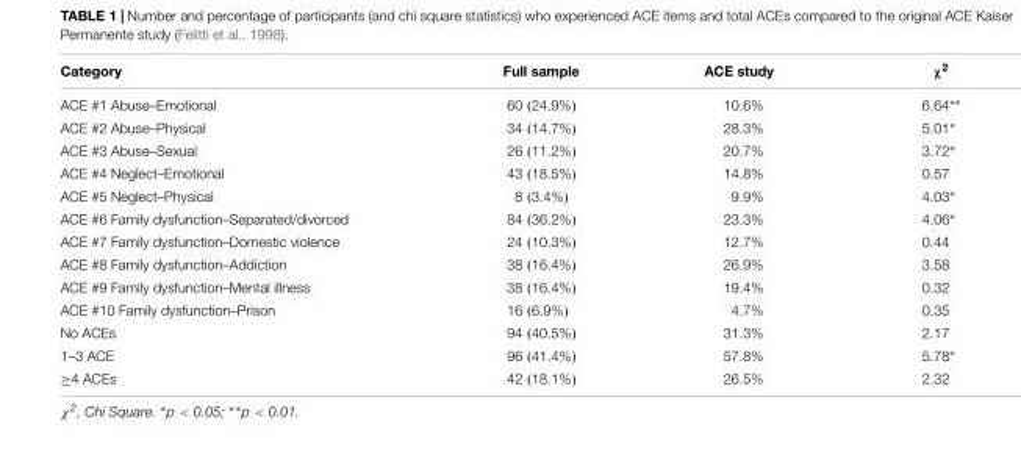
<table><thead><tr><td>Category</td><td>Full sample</td><td>ACE study</td><td>χ<sup>2</sup></td></tr></thead><tbody><tr><td>ACE #1 Abuse–Emotional</td><td>60 (24.9%)</td><td>10.6%</td><td>6.64∗∗</td></tr><tr><td>ACE #2 Abuse–Physical</td><td>34 (14.7%)</td><td>28.3%</td><td>5.01∗</td></tr><tr><td>ACE #3 Abuse–Sexual</td><td>26 (11.2%)</td><td>20.7%</td><td>3.72∗</td></tr><tr><td>ACE #4 Neglect–Emotional</td><td>43 (18.5%)</td><td>14.8%</td><td>0.57</td></tr><tr><td>ACE #5 Neglect–Physical</td><td>8 (3.4%)</td><td>9.9%</td><td>4.03∗</td></tr><tr><td>ACE #6 Family dysfunction–Separated/divorced</td><td>84 (36.2%)</td><td>23.3%</td><td>4.06∗</td></tr><tr><td>ACE #7 Family dysfunction–Domestic violence</td><td>24 (10.3%)</td><td>12.7%</td><td>0.44</td></tr><tr><td>ACE #8 Family dysfunction–Addiction</td><td>38 (16.4%)</td><td>26.9%</td><td>3.58</td></tr><tr><td>ACE #9 Family dysfunction–Mental illness</td><td>38 (16.4%)</td><td>19.4%</td><td>0.32</td></tr><tr><td>ACE #10 Family dysfunction–Prison</td><td>16 (6.9%)</td><td>4.7%</td><td>0.35</td></tr><tr><td>No ACEs</td><td>94 (40.5%)</td><td>31.3%</td><td>2.17</td></tr><tr><td>1–3 ACE</td><td>96 (41.4%)</td><td>57.8%</td><td>5.78∗</td></tr><tr><td>≥4 ACEs</td><td>42 (18.1%)</td><td>26.5%</td><td>2.32</td></tr></tbody></table>